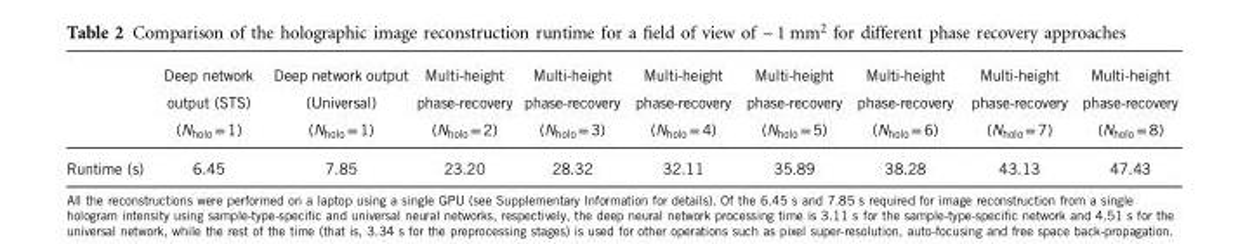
<table><thead><tr><td></td><td>Deep network output (STS) (N<sub>holo</sub> = 1)</td><td>Deep network output (Universal) (N<sub>holo</sub> = 1)</td><td>Multi-height phase-recovery (N<sub>holo</sub> = 2)</td><td>Multi-height phase-recovery (N<sub>holo</sub> = 3)</td><td>Multi-height phase-recovery (N<sub>holo</sub> = 4)</td><td>Multi-height phase-recovery (N<sub>holo</sub>= 5)</td><td>Multi-height phase-recovery (N<sub>holo</sub> = 6)</td><td>Multi-height phase-recovery (N<sub>holo</sub> = 7)</td><td>Multi-height phase-recovery (N<sub>holo</sub> = 8)</td></tr></thead><tbody><tr><td>Runtime (s)</td><td>6.45</td><td>7.85</td><td>23.20</td><td>28.32</td><td>32.11</td><td>35.89</td><td>38.28</td><td>43.13</td><td>47.43</td></tr></tbody></table>